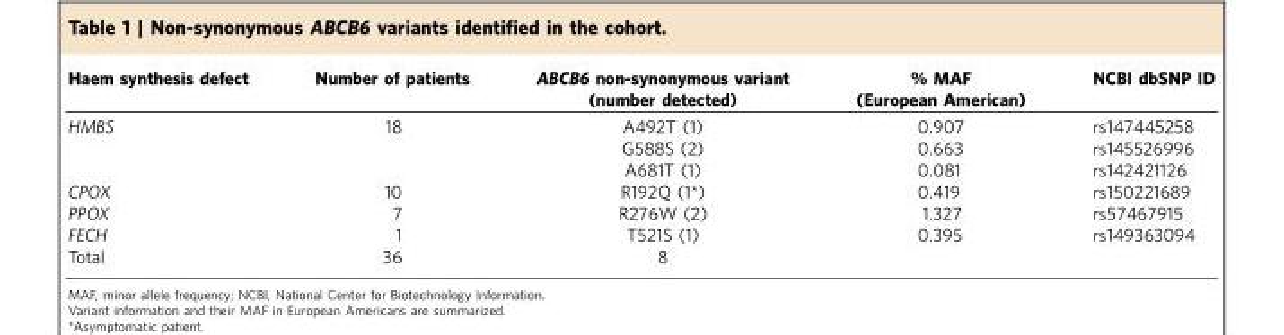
<table><thead><tr><td>Haem synthesis defect</td><td>Number of patients</td><td>ABCB6 non-synonymous variant (number detected)</td><td>% MAF (European American)</td><td>NCBI dbSNP ID</td></tr></thead><tbody><tr><td rowspan="3">HMBS</td><td>18</td><td>A492T (1)</td><td>0.907</td><td>rs147445258</td></tr><tr><td></td><td>G588S (2)</td><td>0.663</td><td>rs145526996</td></tr><tr><td></td><td>A681T (1)</td><td>0.081</td><td>rs142421126</td></tr><tr><td>CPOX</td><td>10</td><td>R192Q (1*)</td><td>0.419</td><td>rs150221689</td></tr><tr><td>PPOX</td><td>7</td><td>R276W (2)</td><td>1.327</td><td>rs57467915</td></tr><tr><td>FECH</td><td>1</td><td>T521S (1)</td><td>0.395</td><td>rs149363094</td></tr><tr><td>Total</td><td>36</td><td>8</td><td></td><td></td></tr></tbody></table>